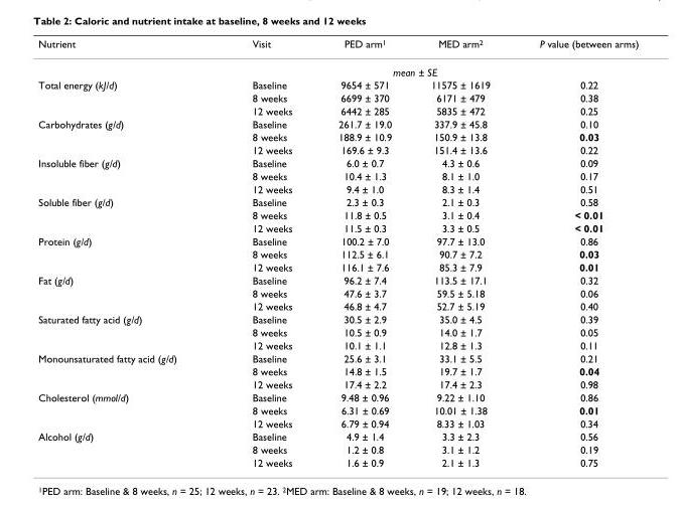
<table><thead><tr><td>Nutrient</td><td>Visit</td><td>PED arm<sup>1</sup></td><td>MED arm<sup>2</sup></td><td>P value (between arms)</td></tr></thead><tbody><tr><td></td><td></td><td colspan="2">mean ± SE</td><td></td></tr><tr><td rowspan="3">Total energy (kJ/d)</td><td>Baseline</td><td>9654 ± 571</td><td>11575 ± 1619</td><td>0.22</td></tr><tr><td>8 weeks</td><td>6699 ± 370</td><td>6171 ± 479</td><td>0.38</td></tr><tr><td>12 weeks</td><td>6442 ± 285</td><td>5835 ± 472</td><td>0.25</td></tr><tr><td rowspan="3">Carbohydrates (g/d)</td><td>Baseline</td><td>261.7 ± 19.0</td><td>337.9 ± 45.8</td><td>0.10</td></tr><tr><td>8 weeks</td><td>188.9 ± 10.9</td><td>150.9 ± 13.8</td><td>0.03</td></tr><tr><td>12 weeks</td><td>169.6 ± 9.3</td><td>151.4 ± 13.6</td><td>0.22</td></tr><tr><td rowspan="3">Insoluble fiber (g/d)</td><td>Baseline</td><td>6.0 ± 0.7</td><td>4.3 ± 0.6</td><td>0.09</td></tr><tr><td>8 weeks</td><td>10.4 ± 1.3</td><td>8.1 ± 1.0</td><td>0.17</td></tr><tr><td>12 weeks</td><td>9.4 ± 1.0</td><td>8.3 ± 1.4</td><td>0.51</td></tr><tr><td rowspan="3">Soluble fiber (g/d)</td><td>Baseline</td><td>2.3 ± 0.3</td><td>2.1 ± 0.3</td><td>0.58</td></tr><tr><td>8 weeks</td><td>11.8 ± 0.5</td><td>3.1 ± 0.4</td><td>&lt; 0.01</td></tr><tr><td>12 weeks</td><td>11.5 ± 0.3</td><td>3.3 ± 0.5</td><td>&lt; 0.01</td></tr><tr><td rowspan="3">Protein (g/d)</td><td>Baseline</td><td>100.2 ± 7.0</td><td>97.7 ± 13.0</td><td>0.86</td></tr><tr><td>8 weeks</td><td>112.5 ± 6.1</td><td>90.7 ± 7.2</td><td>0.03</td></tr><tr><td>12 weeks</td><td>116.1 ± 7.6</td><td>85.3 ± 7.9</td><td>0.01</td></tr><tr><td rowspan="3">Fat (g/d)</td><td>Baseline</td><td>96.2 ± 7.4</td><td>113.5 ± 17.1</td><td>0.32</td></tr><tr><td>8 weeks</td><td>47.6 ± 3.7</td><td>59.5 ± 5.18</td><td>0.06</td></tr><tr><td>12 weeks</td><td>46.8 ± 4.7</td><td>52.7 ± 5.19</td><td>0.40</td></tr><tr><td rowspan="3">Saturated fatty acid (g/d)</td><td>Baseline</td><td>30.5 ± 2.9</td><td>35.0 ± 4.5</td><td>0.39</td></tr><tr><td>8 weeks</td><td>10.5 ± 0.9</td><td>14.0 ± 1.7</td><td>0.05</td></tr><tr><td>12 weeks</td><td>10.1 ± 1.1</td><td>12.8 ± 1.3</td><td>0.11</td></tr><tr><td rowspan="3">Monounsaturated fatty acid (g/d)</td><td>Baseline</td><td>25.6 ± 3.1</td><td>33.1 ± 5.5</td><td>0.21</td></tr><tr><td>8 weeks</td><td>14.8 ± 1.5</td><td>19.7 ± 1.7</td><td>0.04</td></tr><tr><td>12 weeks</td><td>17.4 ± 2.2</td><td>17.4 ± 2.3</td><td>0.98</td></tr><tr><td rowspan="3">Cholesterol (mmol/d)</td><td>Baseline</td><td>9.48 ± 0.96</td><td>9.22 ± 1.10</td><td>0.86</td></tr><tr><td>8 weeks</td><td>6.31 ± 0.69</td><td>10.01 ± 1.38</td><td>0.01</td></tr><tr><td>12 weeks</td><td>6.79 ± 0.94</td><td>8.33 ± 1.03</td><td>0.34</td></tr><tr><td rowspan="3">Alcohol (g/d)</td><td>Baseline</td><td>4.9 ± 1.4</td><td>3.3 ± 2.3</td><td>0.56</td></tr><tr><td>8 weeks</td><td>1.2 ± 0.8</td><td>3.1 ± 1.2</td><td>0.19</td></tr><tr><td>12 weeks</td><td>1.6 ± 0.9</td><td>2.1 ± 1.3</td><td>0.75</td></tr></tbody></table>